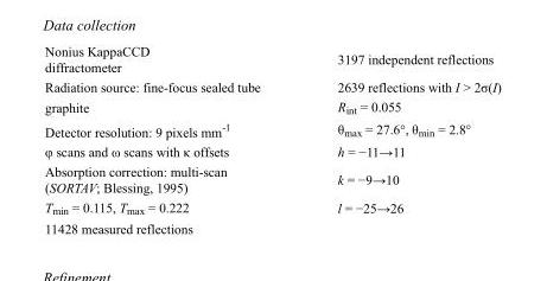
<table><tbody><tr><td>Nonius KappaCCD diffractometer</td><td>3197 independent reflections</td></tr><tr><td>Radiation source: fine-focus sealed tube</td><td>2639 reflections with I &gt; 2σ(I)</td></tr><tr><td>graphite</td><td>R<sub>int</sub> = 0.055</td></tr><tr><td>Detector resolution: 9 pixels mm<sup>-1</sup></td><td>θ<sub>max</sub> = 27.6°, θ<sub>min</sub> = 2.8°</td></tr><tr><td>φ scans and ω scans with κ offsets</td><td>h = −11→11</td></tr><tr><td>Absorption correction: multi-scan (SORTAV; Blessing, 1995)</td><td>k = −9→10</td></tr><tr><td>T<sub>min</sub> = 0.115, T<sub>max</sub> = 0.222</td><td>l = −25→26</td></tr><tr><td>11428 measured reflections</td><td></td></tr></tbody></table>